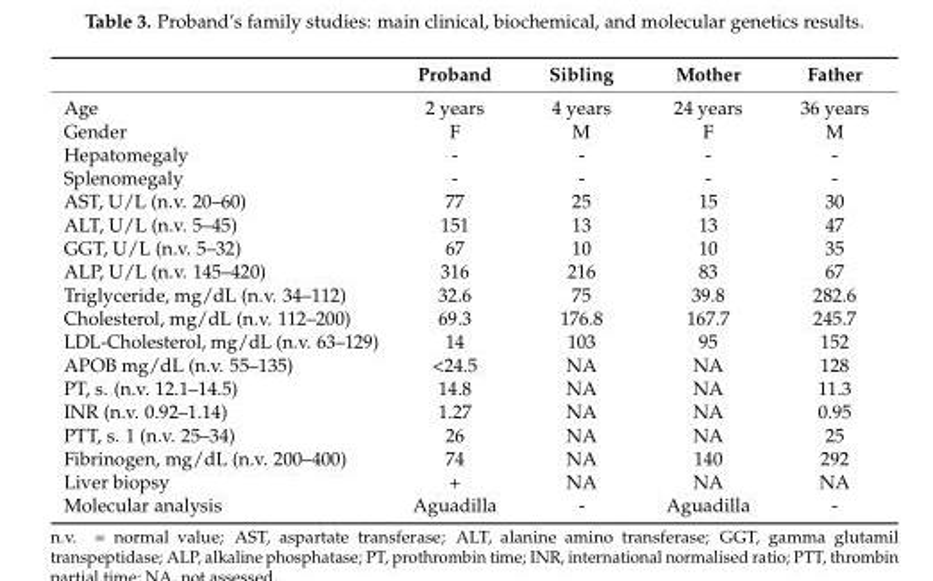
<table><thead><tr><td></td><td>Proband</td><td>Sibling</td><td>Mother</td><td>Father</td></tr></thead><tbody><tr><td>Age</td><td>2 years</td><td>4 years</td><td>24 years</td><td>36 years</td></tr><tr><td>Gender</td><td>F</td><td>M</td><td>F</td><td>M</td></tr><tr><td>Hepatomegaly</td><td>-</td><td>-</td><td>-</td><td>-</td></tr><tr><td>Splenomegaly</td><td>-</td><td>-</td><td>-</td><td>-</td></tr><tr><td>AST, U/L (n.v. 20–60)</td><td>77</td><td>25</td><td>15</td><td>30</td></tr><tr><td>ALT, U/L (n.v. 5–45)</td><td>151</td><td>13</td><td>13</td><td>47</td></tr><tr><td>GGT, U/L (n.v. 5–32)</td><td>67</td><td>10</td><td>10</td><td>35</td></tr><tr><td>ALP, U/L (n.v. 145–420)</td><td>316</td><td>216</td><td>83</td><td>67</td></tr><tr><td>Triglyceride, mg/dL (n.v. 34–112)</td><td>32.6</td><td>75</td><td>39.8</td><td>282.6</td></tr><tr><td>Cholesterol, mg/dL (n.v. 112–200)</td><td>69.3</td><td>176.8</td><td>167.7</td><td>245.7</td></tr><tr><td>LDL-Cholesterol, mg/dL (n.v. 63–129)</td><td>14</td><td>103</td><td>95</td><td>152</td></tr><tr><td>APOB mg/dL (n.v. 55–135)</td><td>&lt;24.5</td><td>NA</td><td>NA</td><td>128</td></tr><tr><td>PT, s. (n.v. 12.1–14.5)</td><td>14.8</td><td>NA</td><td>NA</td><td>11.3</td></tr><tr><td>INR (n.v. 0.92–1.14)</td><td>1.27</td><td>NA</td><td>NA</td><td>0.95</td></tr><tr><td>PTT, s. 1 (n.v. 25–34)</td><td>26</td><td>NA</td><td>NA</td><td>25</td></tr><tr><td>Fibrinogen, mg/dL (n.v. 200–400)</td><td>74</td><td>NA</td><td>140</td><td>292</td></tr><tr><td>Liver biopsy</td><td>+</td><td>NA</td><td>NA</td><td>NA</td></tr><tr><td>Molecular analysis</td><td>Aguadilla</td><td>-</td><td>Aguadilla</td><td>-</td></tr></tbody></table>